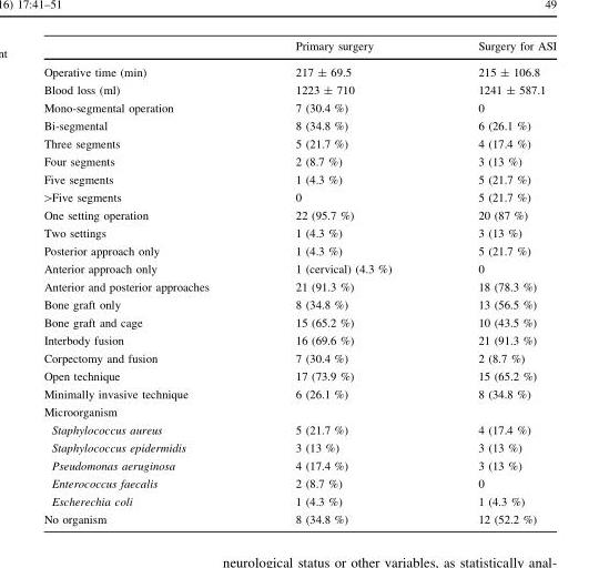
<table><thead><tr><td></td><td>Primary surgery</td><td>Surgery for ASI</td></tr></thead><tbody><tr><td>Operative time (min)</td><td>217 ± 69.5</td><td>215 ± 106.8</td></tr><tr><td>Blood loss (ml)</td><td>1223 ± 710</td><td>1241 ± 587.1</td></tr><tr><td>Mono-segmental operation</td><td>7 (30.4 %)</td><td>0</td></tr><tr><td>Bi-segmental</td><td>8 (34.8 %)</td><td>6 (26.1 %)</td></tr><tr><td>Three segments</td><td>5 (21.7 %)</td><td>4 (17.4 %)</td></tr><tr><td>Four segments</td><td>2 (8.7 %)</td><td>3 (13 %)</td></tr><tr><td>Five segments</td><td>1 (4.3 %)</td><td>5 (21.7 %)</td></tr><tr><td>&gt;Five segments</td><td>0</td><td>5 (21.7 %)</td></tr><tr><td>One setting operation</td><td>22 (95.7 %)</td><td>20 (87 %)</td></tr><tr><td>Two settings</td><td>1 (4.3 %)</td><td>3 (13 %)</td></tr><tr><td>Posterior approach only</td><td>1 (4.3 %)</td><td>5 (21.7 %)</td></tr><tr><td>Anterior approach only</td><td>1 (cervical) (4.3 %)</td><td>0</td></tr><tr><td>Anterior and posterior approaches</td><td>21 (91.3 %)</td><td>18 (78.3 %)</td></tr><tr><td>Bone graft only</td><td>8 (34.8 %)</td><td>13 (56.5 %)</td></tr><tr><td>Bone graft and cage</td><td>15 (65.2 %)</td><td>10 (43.5 %)</td></tr><tr><td>Interbody fusion</td><td>16 (69.6 %)</td><td>21 (91.3 %)</td></tr><tr><td>Corpectomy and fusion</td><td>7 (30.4 %)</td><td>2 (8.7 %)</td></tr><tr><td>Open technique</td><td>17 (73.9 %)</td><td>15 (65.2 %)</td></tr><tr><td>Minimally invasive technique</td><td>6 (26.1 %)</td><td>8 (34.8 %)</td></tr><tr><td colspan="3">Microorganism</td></tr><tr><td>Staphylococcus aureus</td><td>5 (21.7 %)</td><td>4 (17.4 %)</td></tr><tr><td>Staphylococcus epidermidis</td><td>3 (13 %)</td><td>3 (13 %)</td></tr><tr><td>Pseudomonas aeruginosa</td><td>4 (17.4 %)</td><td>3 (13 %)</td></tr><tr><td>Enterococcus faecalis</td><td>2 (8.7 %)</td><td>0</td></tr><tr><td>Escherechia coli</td><td>1 (4.3 %)</td><td>1 (4.3 %)</td></tr><tr><td>No organism</td><td>8 (34.8 %)</td><td>12 (52.2 %)</td></tr></tbody></table>